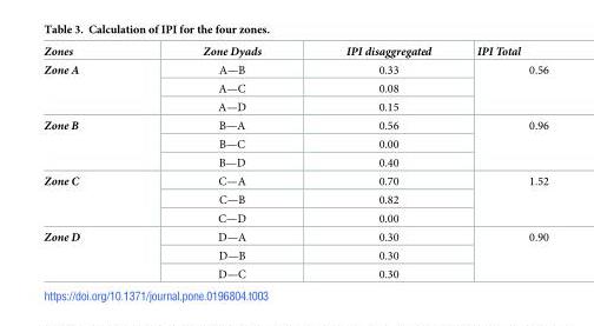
<table><thead><tr><td>Zones</td><td>Zone Dyads</td><td>IPI disaggregated</td><td>IPI Total</td></tr></thead><tbody><tr><td rowspan="3">Zone A</td><td>A—B</td><td>0.33</td><td rowspan="3">0.56</td></tr><tr><td>A—C</td><td>0.08</td></tr><tr><td>A—D</td><td>0.15</td></tr><tr><td rowspan="3">Zone B</td><td>B—A</td><td>0.56</td><td rowspan="3">0.96</td></tr><tr><td>B—C</td><td>0.00</td></tr><tr><td>B—D</td><td>0.40</td></tr><tr><td rowspan="3">Zone C</td><td>C—A</td><td>0.70</td><td rowspan="3">1.52</td></tr><tr><td>C—B</td><td>0.82</td></tr><tr><td>C—D</td><td>0.00</td></tr><tr><td rowspan="3">Zone D</td><td>D—A</td><td>0.30</td><td rowspan="3">0.90</td></tr><tr><td>D—B</td><td>0.30</td></tr><tr><td>D—C</td><td>0.30</td></tr></tbody></table>